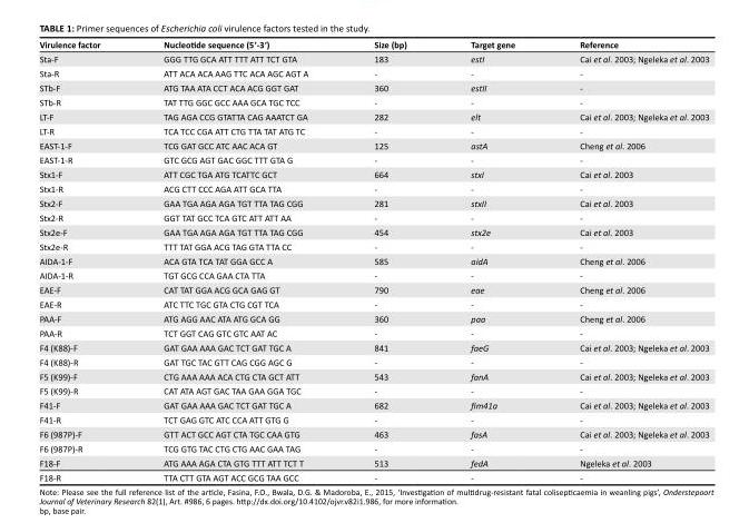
<table><thead><tr><td>Virulence factor</td><td>Nucleotide sequence (5ʹ-3ʹ)</td><td>Size (bp)</td><td>Target gene</td><td>Reference</td></tr></thead><tbody><tr><td>Sta-F</td><td>GGG TTG GCA ATT TTT ATT TCT GTA</td><td>183</td><td>estI</td><td>Cai et al. 2003; Ngeleka et al. 2003</td></tr><tr><td>Sta-R</td><td>ATT ACA ACA AAG TTC ACA AGC AGT A</td><td>-</td><td>-</td><td>-</td></tr><tr><td>STb-F</td><td>ATG TAA ATA CCT ACA ACG GGT GAT</td><td>360</td><td>estII</td><td>-</td></tr><tr><td>STb-R</td><td>TAT TTG GGC GCC AAA GCA TGC TCC</td><td>-</td><td>-</td><td>-</td></tr><tr><td>LT-F</td><td>TAG AGA CCG GTATTA CAG AAATCT GA</td><td>282</td><td>elt</td><td>Cai et al. 2003; Ngeleka et al. 2003</td></tr><tr><td>LT-R</td><td>TCA TCC CGA ATT CTG TTA TAT ATG TC</td><td>-</td><td>-</td><td>-</td></tr><tr><td>EAST-1-F</td><td>TCG GAT GCC ATC AAC ACA GT</td><td>125</td><td>astA</td><td>Cheng et al. 2006</td></tr><tr><td>EAST-1-R</td><td>GTC GCG AGT GAC GGC TTT GTA G</td><td>-</td><td>-</td><td>-</td></tr><tr><td>Stx1-F</td><td>ATT CGC TGA ATG TCATTC GCT</td><td>664</td><td>stxI</td><td>Cai et al. 2003</td></tr><tr><td>Stx1-R</td><td>ACG CTT CCC AGA ATT GCA TTA</td><td>-</td><td>-</td><td>-</td></tr><tr><td>Stx2-F</td><td>GAA TGA AGA AGA TGT TTA TAG CGG</td><td>281</td><td>stxII</td><td>Cai et al. 2003</td></tr><tr><td>Stx2-R</td><td>GGT TAT GCC TCA GTC ATT ATT AA</td><td>-</td><td>-</td><td>-</td></tr><tr><td>Stx2e-F</td><td>GAA TGA AGA AGA TGT TTA TAG CGG</td><td>454</td><td>stx2e</td><td>Cai et al. 2003</td></tr><tr><td>Stx2e-R</td><td>TTT TAT GGA ACG TAG GTA TTA CC</td><td>-</td><td>-</td><td>-</td></tr><tr><td>AIDA-1-F</td><td>ACA GTA TCA TAT GGA GCC A</td><td>585</td><td>aidA</td><td>Cheng et al. 2006</td></tr><tr><td>AIDA-1-R</td><td>TGT GCG CCA GAA CTA TTA</td><td>-</td><td>-</td><td>-</td></tr><tr><td>EAE-F</td><td>CAT TAT GGA ACG GCA GAG GT</td><td>790</td><td>eae</td><td>Cheng et al. 2006</td></tr><tr><td>EAE-R</td><td>ATC TTC TGC GTA CTG CGT TCA</td><td>-</td><td>-</td><td>-</td></tr><tr><td>PAA-F</td><td>ATG AGG AAC ATA ATG GCA GG</td><td>360</td><td>paa</td><td>Cheng et al. 2006</td></tr><tr><td>PAA-R</td><td>TCT GGT CAG GTC GTC AAT AC</td><td>-</td><td>-</td><td>-</td></tr><tr><td>F4 (K88)-F</td><td>GAT GAA AAA GAC TCT GAT TGC A</td><td>841</td><td>faeG</td><td>Cai et al. 2003; Ngeleka et al. 2003</td></tr><tr><td>F4 (K88)-R</td><td>GAT TGC TAC GTT CAG CGG AGC G</td><td>-</td><td>-</td><td>-</td></tr><tr><td>F5 (K99)-F</td><td>CTG AAA AAA ACA CTG CTA GCT ATT</td><td>543</td><td>fanA</td><td>Cai et al. 2003; Ngeleka et al. 2003</td></tr><tr><td>F5 (K99)-R</td><td>CAT ATA AGT GAC TAA GAA GGA TGC</td><td>-</td><td>-</td><td>-</td></tr><tr><td>F41-F</td><td>GAT GAA AAA GAC TCT GAT TGC A</td><td>682</td><td>fim41a</td><td>Cai et al. 2003; Ngeleka et al. 2003</td></tr><tr><td>F41-R</td><td>TCT GAG GTC ATC CCA ATT GTG G</td><td>-</td><td>-</td><td>-</td></tr><tr><td>F6 (987P)-F</td><td>GTT ACT GCC AGT CTA TGC CAA GTG</td><td>463</td><td>fasA</td><td>Cai et al. 2003; Ngeleka et al. 2003</td></tr><tr><td>F6 (987P)-R</td><td>TCG GTG TAC CTG CTG AAC GAA TAG</td><td>-</td><td>-</td><td>-</td></tr><tr><td>F18-F</td><td>ATG AAA AGA CTA GTG TTT ATT TCT T</td><td>513</td><td>fedA</td><td>Ngeleka et al. 2003</td></tr><tr><td>F18-R</td><td>TTA CTT GTA AGT ACC GCG TAA GCC</td><td>-</td><td>-</td><td>-</td></tr></tbody></table>